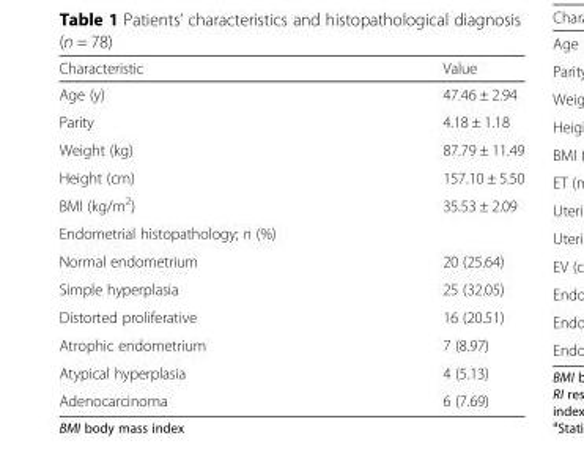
<table><thead><tr><td>Characteristic</td><td>Value</td></tr></thead><tbody><tr><td>Age (y)</td><td>47.46 ± 2.94</td></tr><tr><td>Parity</td><td>4.18 ± 1.18</td></tr><tr><td>Weight (kg)</td><td>87.79 ± 11.49</td></tr><tr><td>Height (cm)</td><td>157.10 ± 5.50</td></tr><tr><td>BMI (kg/m<sup>2</sup>)</td><td>35.53 ± 2.09</td></tr><tr><td colspan="2">Endometrial histopathology; n (%)</td></tr><tr><td>Normal endometrium</td><td>20 (25.64)</td></tr><tr><td>Simple hyperplasia</td><td>25 (32.05)</td></tr><tr><td>Distorted proliferative</td><td>16 (20.51)</td></tr><tr><td>Atrophic endometrium</td><td>7 (8.97)</td></tr><tr><td>Atypical hyperplasia</td><td>4 (5.13)</td></tr><tr><td>Adenocarcinoma</td><td>6 (7.69)</td></tr></tbody></table>